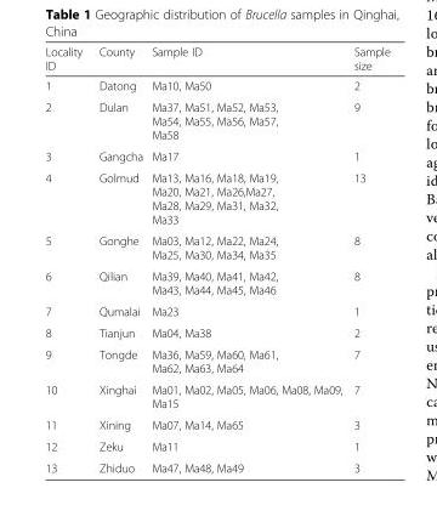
<table><thead><tr><td>Locality ID</td><td>County</td><td>Sample ID</td><td>Sample size</td></tr></thead><tbody><tr><td>1</td><td>Datong</td><td>Ma10, Ma50</td><td>2</td></tr><tr><td>2</td><td>Dulan</td><td>Ma37, Ma51, Ma52, Ma53, Ma54, Ma55, Ma56, Ma57, Ma58</td><td>9</td></tr><tr><td>3</td><td>Gangcha</td><td>Ma17</td><td>1</td></tr><tr><td>4</td><td>Golmud</td><td>Ma13, Ma16, Ma18, Ma19, Ma20, Ma21, Ma26,Ma27, Ma28, Ma29, Ma31, Ma32, Ma33</td><td>13</td></tr><tr><td>5</td><td>Gonghe</td><td>Ma03, Ma12, Ma22, Ma24, Ma25, Ma30, Ma34, Ma35</td><td>8</td></tr><tr><td>6</td><td>Qilian</td><td>Ma39, Ma40, Ma41, Ma42, Ma43, Ma44, Ma45, Ma46</td><td>8</td></tr><tr><td>7</td><td>Qumalai</td><td>Ma23</td><td>1</td></tr><tr><td>8</td><td>Tianjun</td><td>Ma04, Ma38</td><td>2</td></tr><tr><td>9</td><td>Tongde</td><td>Ma36, Ma59, Ma60, Ma61, Ma62, Ma63, Ma64</td><td>7</td></tr><tr><td>10</td><td>Xinghai</td><td>Ma01, Ma02, Ma05, Ma06, Ma08, Ma09, Ma15</td><td>7</td></tr><tr><td>11</td><td>Xining</td><td>Ma07, Ma14, Ma65</td><td>3</td></tr><tr><td>12</td><td>Zeku</td><td>Ma11</td><td>1</td></tr><tr><td>13</td><td>Zhiduo</td><td>Ma47, Ma48, Ma49</td><td>3</td></tr></tbody></table>